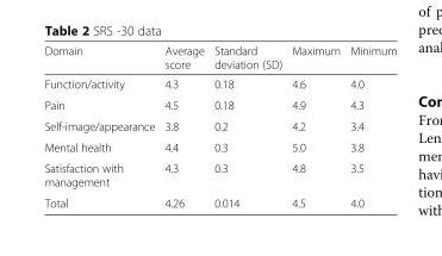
<table><thead><tr><td>Domain</td><td>Average score</td><td>Standard deviation (SD)</td><td>Maximum</td><td>Minimum</td></tr></thead><tbody><tr><td>Function/activity</td><td>4.3</td><td>0.18</td><td>4.6</td><td>4.0</td></tr><tr><td>Pain</td><td>4.5</td><td>0.18</td><td>4.9</td><td>4.3</td></tr><tr><td>Self-image/appearance</td><td>3.8</td><td>0.2</td><td>4.2</td><td>3.4</td></tr><tr><td>Mental health</td><td>4.4</td><td>0.3</td><td>5.0</td><td>3.8</td></tr><tr><td>Satisfaction with management</td><td>4.3</td><td>0.3</td><td>4.8</td><td>3.5</td></tr><tr><td>Total</td><td>4.26</td><td>0.014</td><td>4.5</td><td>4.0</td></tr></tbody></table>